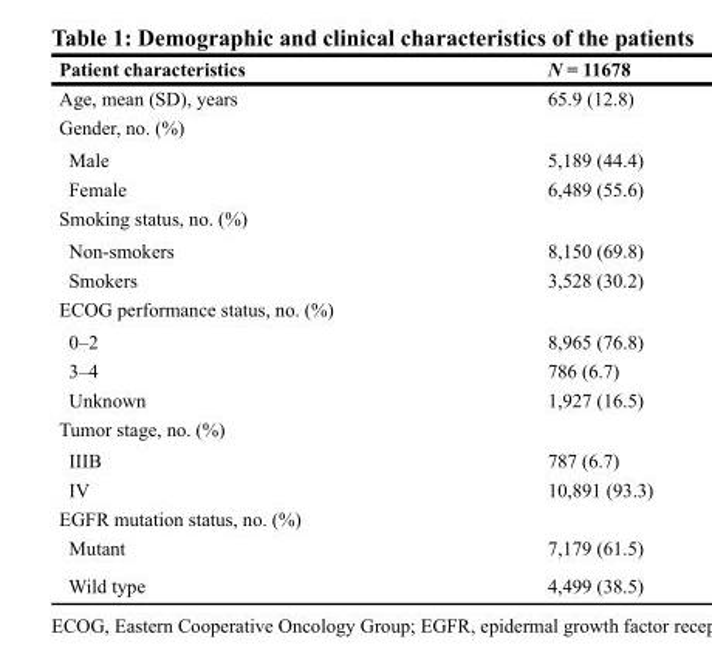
<table><thead><tr><td>Patient characteristics</td><td>N = 11678</td></tr></thead><tbody><tr><td>Age, mean (SD), years</td><td>65.9 (12.8)</td></tr><tr><td colspan="2">Gender, no. (%)</td></tr><tr><td>Male</td><td>5,189 (44.4)</td></tr><tr><td>Female</td><td>6,489 (55.6)</td></tr><tr><td colspan="2">Smoking status, no. (%)</td></tr><tr><td>Non-smokers</td><td>8,150 (69.8)</td></tr><tr><td>Smokers</td><td>3,528 (30.2)</td></tr><tr><td colspan="2">ECOG performance status, no. (%)</td></tr><tr><td>0–2</td><td>8,965 (76.8)</td></tr><tr><td>3–4</td><td>786 (6.7)</td></tr><tr><td>Unknown</td><td>1,927 (16.5)</td></tr><tr><td colspan="2">Tumor stage, no. (%)</td></tr><tr><td>IIIB</td><td>787 (6.7)</td></tr><tr><td>IV</td><td>10,891 (93.3)</td></tr><tr><td colspan="2">EGFR mutation status, no. (%)</td></tr><tr><td>Mutant</td><td>7,179 (61.5)</td></tr><tr><td>Wild type</td><td>4,499 (38.5)</td></tr></tbody></table>